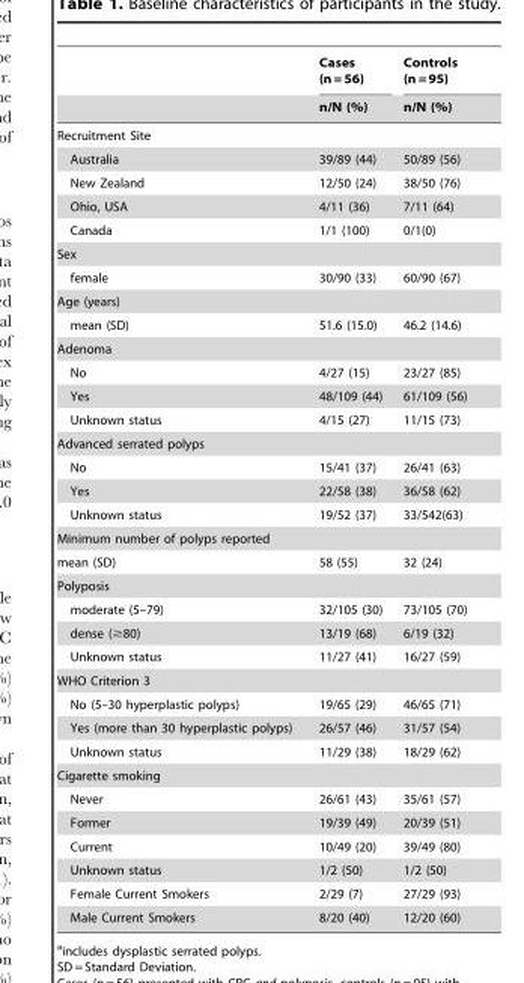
<table><thead><tr><td rowspan="2"></td><td rowspan="2">Cases (n = 56) n/N (%)</td><td rowspan="2">Controls (n = 95) n/N (%)</td></tr><tr></tr></thead><tbody><tr><td colspan="3">Recruitment Site</td></tr><tr><td>Australia</td><td>39/89 (44)</td><td>50/89 (56)</td></tr><tr><td>New Zealand</td><td>12/50 (24)</td><td>38/50 (76)</td></tr><tr><td>Ohio, USA</td><td>4/11 (36)</td><td>7/11 (64)</td></tr><tr><td>Canada</td><td>1/1 (100)</td><td>0/1(0)</td></tr><tr><td colspan="3">Sex</td></tr><tr><td>female</td><td>30/90 (33)</td><td>60/90 (67)</td></tr><tr><td colspan="3">Age (years)</td></tr><tr><td>mean (SD)</td><td>51.6 (15.0)</td><td>46.2 (14.6)</td></tr><tr><td colspan="3">Adenoma</td></tr><tr><td>No</td><td>4/27 (15)</td><td>23/27 (85)</td></tr><tr><td>Yes</td><td>48/109 (44)</td><td>61/109 (56)</td></tr><tr><td>Unknown status</td><td>4/15 (27)</td><td>11/15 (73)</td></tr><tr><td colspan="3">Advanced serrated polyps</td></tr><tr><td>No</td><td>15/41 (37)</td><td>26/41 (63)</td></tr><tr><td>Yes</td><td>22/58 (38)</td><td>36/58 (62)</td></tr><tr><td>Unknown status</td><td>19/52 (37)</td><td>33/542(63)</td></tr><tr><td colspan="3">Minimum number of polyps reported</td></tr><tr><td>mean (SD)</td><td>58 (55)</td><td>32 (24)</td></tr><tr><td colspan="3">Polyposis</td></tr><tr><td>moderate (5–79)</td><td>32/105 (30)</td><td>73/105 (70)</td></tr><tr><td>dense (≥80)</td><td>13/19 (68)</td><td>6/19 (32)</td></tr><tr><td>Unknown status</td><td>11/27 (41)</td><td>16/27 (59)</td></tr><tr><td colspan="3">WHO Criterion 3</td></tr><tr><td>No (5–30 hyperplastic polyps)</td><td>19/65 (29)</td><td>46/65 (71)</td></tr><tr><td>Yes (more than 30 hyperplastic polyps)</td><td>26/57 (46)</td><td>31/57 (54)</td></tr><tr><td>Unknown status</td><td>11/29 (38)</td><td>18/29 (62)</td></tr><tr><td colspan="3">Cigarette smoking</td></tr><tr><td>Never</td><td>26/61 (43)</td><td>35/61 (57)</td></tr><tr><td>Former</td><td>19/39 (49)</td><td>20/39 (51)</td></tr><tr><td>Current</td><td>10/49 (20)</td><td>39/49 (80)</td></tr><tr><td>Unknown status</td><td>1/2 (50)</td><td>1/2 (50)</td></tr><tr><td>Female Current Smokers</td><td>2/29 (7)</td><td>27/29 (93)</td></tr><tr><td>Male Current Smokers</td><td>8/20 (40)</td><td>12/20 (60)</td></tr></tbody></table>